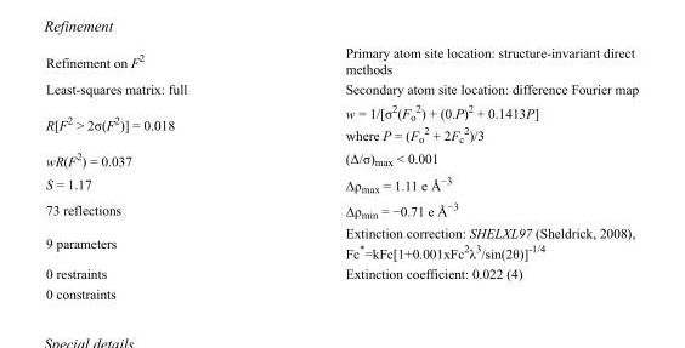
<table><tbody><tr><td>Refinement on F<sup>2</sup></td><td>Primary atom site location: structure-invariant direct methods</td></tr><tr><td>Least-squares matrix: full</td><td>Secondary atom site location: difference Fourier map</td></tr><tr><td>R[F<sup>2</sup> &gt; 2σ(F<sup>2</sup>)] = 0.018</td><td>w = 1/[σ<sup>2</sup>(F<sub>o</sub> <sup>2</sup>) + (0.P)<sup>2</sup> + 0.1413P] where P = (F<sub>o</sub> <sup>2</sup> + 2F<sub>c</sub> <sup>2</sup>)/3</td></tr><tr><td>wR(F<sup>2</sup>) = 0.037</td><td>(Δ/σ)<sub>max</sub> &lt; 0.001</td></tr><tr><td>S = 1.17</td><td>Δρ<sub>max</sub> = 1.11 e Å<sup>−3</sup></td></tr><tr><td>73 reflections</td><td>Δρ<sub>min</sub> = −0.71 e Å<sup>−3</sup></td></tr><tr><td>9 parameters</td><td>Extinction correction: SHELXL97 (Sheldrick, 2008), Fc*=kFc[1+0.001xFc<sup>2</sup>λ<sup>3</sup>/sin(2θ)]<sup>-1/4</sup></td></tr><tr><td>0 restraints</td><td>Extinction coefficient: 0.022 (4)</td></tr><tr><td>0 constraints</td><td></td></tr></tbody></table>